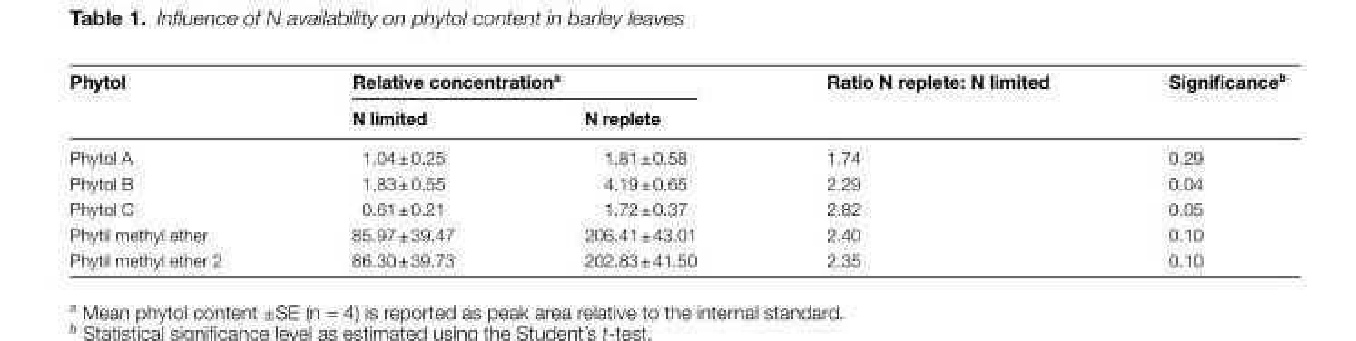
<table><thead><tr><td rowspan="2">Phytol</td><td colspan="2">Relative concentration<sup>a</sup></td><td rowspan="2">Ratio N replete: N limited</td><td rowspan="2">Significance<sup>b</sup></td></tr><tr><td>N limited</td><td>N replete</td></tr></thead><tbody><tr><td>Phytol A</td><td>1.04 ± 0.25</td><td>1.81 ± 0.58</td><td>1.74</td><td>0.29</td></tr><tr><td>Phytol B</td><td>1.83 ± 0.55</td><td>4.19 ± 0.65</td><td>2.29</td><td>0.04</td></tr><tr><td>Phytol C</td><td>0.61 ± 0.21</td><td>1.72 ± 0.37</td><td>2.82</td><td>0.05</td></tr><tr><td>Phytil methyl ether</td><td>85.97 ± 39.47</td><td>206.41 ± 43.01</td><td>2.40</td><td>0.10</td></tr><tr><td>Phytil methyl ether 2</td><td>86.30 ± 39.73</td><td>202.83 ± 41.50</td><td>2.35</td><td>0.10</td></tr></tbody></table>